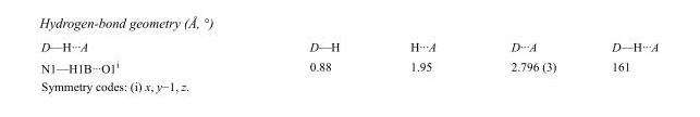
<table><tbody><tr><td>D—H···A</td><td>D—H</td><td>H···A</td><td>D···A</td><td>D—H···A</td></tr><tr><td>N1—H1B···O1<sup>i</sup></td><td>0.88</td><td>1.95</td><td>2.796 (3)</td><td>161</td></tr></tbody></table>